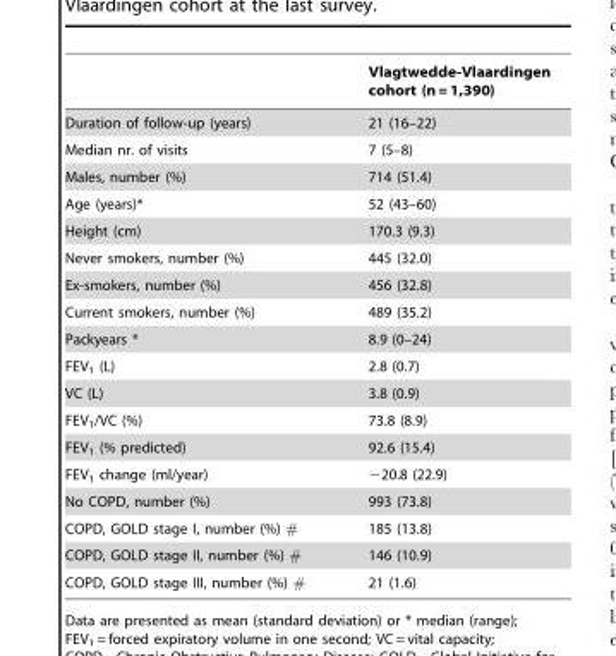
<table><thead><tr><td></td><td>Vlagtwedde-Vlaardingen cohort (n = 1,390)</td></tr></thead><tbody><tr><td>Duration of follow-up (years)</td><td>21 (16–22)</td></tr><tr><td>Median nr. of visits</td><td>7 (5–8)</td></tr><tr><td>Males, number (%)</td><td>714 (51.4)</td></tr><tr><td>Age (years)*</td><td>52 (43–60)</td></tr><tr><td>Height (cm)</td><td>170.3 (9.3)</td></tr><tr><td>Never smokers, number (%)</td><td>445 (32.0)</td></tr><tr><td>Ex-smokers, number (%)</td><td>456 (32.8)</td></tr><tr><td>Current smokers, number (%)</td><td>489 (35.2)</td></tr><tr><td>Packyears *</td><td>8.9 (0–24)</td></tr><tr><td>FEV<sub>1</sub> (L)</td><td>2.8 (0.7)</td></tr><tr><td>VC (L)</td><td>3.8 (0.9)</td></tr><tr><td>FEV<sub>1</sub>/VC (%)</td><td>73.8 (8.9)</td></tr><tr><td>FEV<sub>1</sub> (% predicted)</td><td>92.6 (15.4)</td></tr><tr><td>FEV<sub>1</sub> change (ml/year)</td><td>−20.8 (22.9)</td></tr><tr><td>No COPD, number (%)</td><td>993 (73.8)</td></tr><tr><td>COPD, GOLD stage I, number (%) #</td><td>185 (13.8)</td></tr><tr><td>COPD, GOLD stage II, number (%) #</td><td>146 (10.9)</td></tr><tr><td>COPD, GOLD stage III, number (%) #</td><td>21 (1.6)</td></tr></tbody></table>